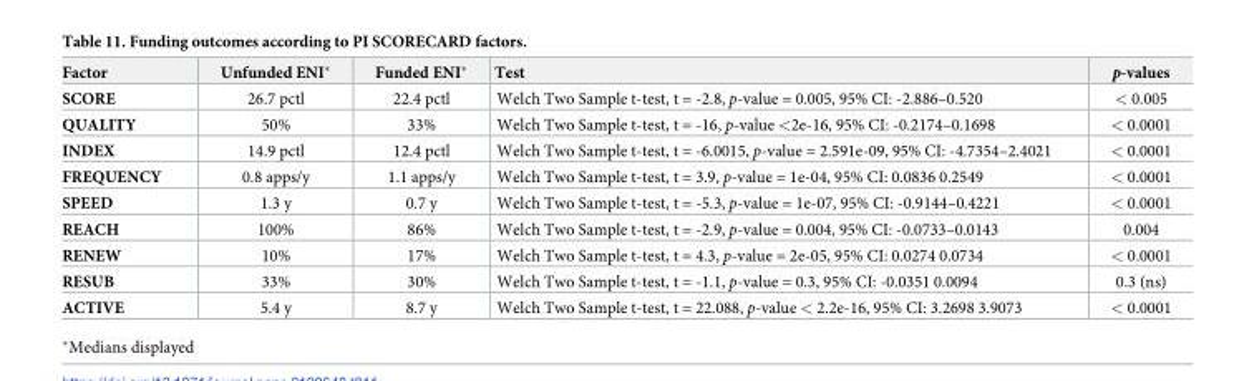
<table><thead><tr><td>Factor</td><td>Unfunded ENI*</td><td>Funded ENI*</td><td>Test</td><td>p-values</td></tr></thead><tbody><tr><td>SCORE</td><td>26.7 pctl</td><td>22.4 pctl</td><td>Welch Two Sample t-test, t = -2.8, p-value = 0.005, 95% CI: -2.886–0.520</td><td>&lt; 0.005</td></tr><tr><td>QUALITY</td><td>50%</td><td>33%</td><td>Welch Two Sample t-test, t = -16, p-value &lt;2e-16, 95% CI: -0.2174–0.1698</td><td>&lt; 0.0001</td></tr><tr><td>INDEX</td><td>14.9 pctl</td><td>12.4 pctl</td><td>Welch Two Sample t-test, t = -6.0015, p-value = 2.591e-09, 95% CI: -4.7354–2.4021</td><td>&lt; 0.0001</td></tr><tr><td>FREQUENCY</td><td>0.8 apps/y</td><td>1.1 apps/y</td><td>Welch Two Sample t-test, t = 3.9, p-value = 1e-04, 95% CI: 0.0836 0.2549</td><td>&lt; 0.0001</td></tr><tr><td>SPEED</td><td>1.3 y</td><td>0.7 y</td><td>Welch Two Sample t-test, t = -5.3, p-value = 1e-07, 95% CI: -0.9144–0.4221</td><td>&lt; 0.0001</td></tr><tr><td>REACH</td><td>100%</td><td>86%</td><td>Welch Two Sample t-test, t = -2.9, p-value = 0.004, 95% CI: -0.0733–0.0143</td><td>0.004</td></tr><tr><td>RENEW</td><td>10%</td><td>17%</td><td>Welch Two Sample t-test, t = 4.3, p-value = 2e-05, 95% CI: 0.0274 0.0734</td><td>&lt; 0.0001</td></tr><tr><td>RESUB</td><td>33%</td><td>30%</td><td>Welch Two Sample t-test, t = -1.1, p-value = 0.3, 95% CI: -0.0351 0.0094</td><td>0.3 (ns)</td></tr><tr><td>ACTIVE</td><td>5.4 y</td><td>8.7 y</td><td>Welch Two Sample t-test, t = 22.088, p-value &lt; 2.2e-16, 95% CI: 3.2698 3.9073</td><td>&lt; 0.0001</td></tr></tbody></table>